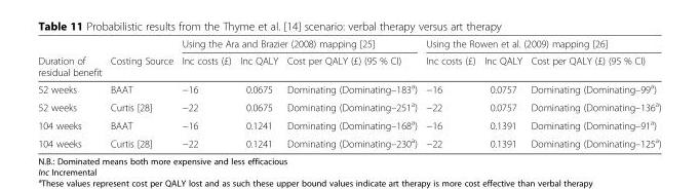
<table><thead><tr><td rowspan="2">Duration of residual benefit</td><td rowspan="2">Costing Source</td><td colspan="3">Using the Ara and Brazier (2008) mapping [25]</td><td colspan="3">Using the Rowen et al. (2009) mapping [26]</td></tr><tr><td>Inc costs (£)</td><td>Inc QALY</td><td>Cost per QALY (£) (95 % CI)</td><td>Inc costs (£)</td><td>Inc QALY</td><td>Cost per QALY (£) (95 % CI)</td></tr></thead><tbody><tr><td>52 weeks</td><td>BAAT</td><td>−16</td><td>0.0675</td><td>Dominating (Dominating–183<sup>a</sup>)</td><td>−16</td><td>0.0757</td><td>Dominating (Dominating–99<sup>a</sup>)</td></tr><tr><td>52 weeks</td><td>Curtis [28]</td><td>−22</td><td>0.0675</td><td>Dominating (Dominating–251<sup>a</sup>)</td><td>−22</td><td>0.0757</td><td>Dominating (Dominating–136<sup>a</sup>)</td></tr><tr><td>104 weeks</td><td>BAAT</td><td>−16</td><td>0.1241</td><td>Dominating (Dominating–168<sup>a</sup>)</td><td>−16</td><td>0.1391</td><td>Dominating (Dominating–91<sup>a</sup>)</td></tr><tr><td>104 weeks</td><td>Curtis [28]</td><td>−22</td><td>0.1241</td><td>Dominating (Dominating–230<sup>a</sup>)</td><td>−22</td><td>0.1391</td><td>Dominating (Dominating–125<sup>a</sup>)</td></tr></tbody></table>